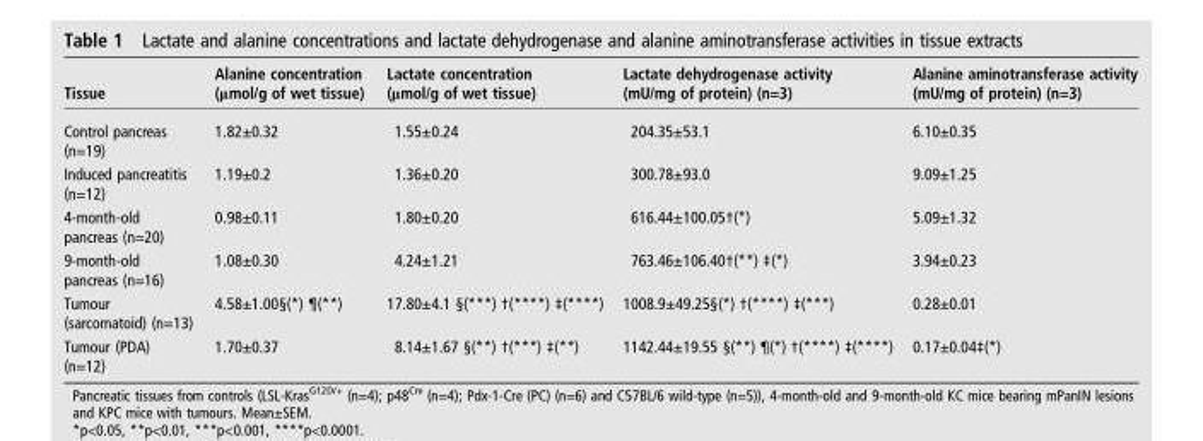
<table><thead><tr><td>Tissue</td><td>Alanine concentration (μmol/g of wet tissue)</td><td>Lactate concentration (μmol/g of wet tissue)</td><td>Lactate dehydrogenase activity (mU/mg of protein) (n=3)</td><td>Alanine aminotransferase activity (mU/mg of protein) (n=3)</td></tr></thead><tbody><tr><td>Control pancreas (n=19)</td><td>1.82±0.32</td><td>1.55±0.24</td><td>204.35±53.1</td><td>6.10±0.35</td></tr><tr><td>Induced pancreatitis (n=12)</td><td>1.19±0.2</td><td>1.36±0.20</td><td>300.78±93.0</td><td>9.09±1.25</td></tr><tr><td>4-month-old pancreas (n=20)</td><td>0.98±0.11</td><td>1.80±0.20</td><td>616.44±100.05†(*)</td><td>5.09±1.32</td></tr><tr><td>9-month-old pancreas (n=16)</td><td>1.08±0.30</td><td>4.24±1.21</td><td>763.46±106.40†(**) ‡(*)</td><td>3.94±0.23</td></tr><tr><td>Tumour (sarcomatoid) (n=13)</td><td>4.58±1.00§(*) ¶(**)</td><td>17.80±4.1 §(***) †(****) ‡(****)</td><td>1008.9±49.25§(*) †(****) ‡(***)</td><td>0.28±0.01</td></tr><tr><td>Tumour (PDA) (n=12)</td><td>1.70±0.37</td><td>8.14±1.67 §(**) †(***) ‡(**)</td><td>1142.44±19.55 §(**) ¶(*) †(****) ‡(****)</td><td>0.17±0.04‡(*)</td></tr></tbody></table>